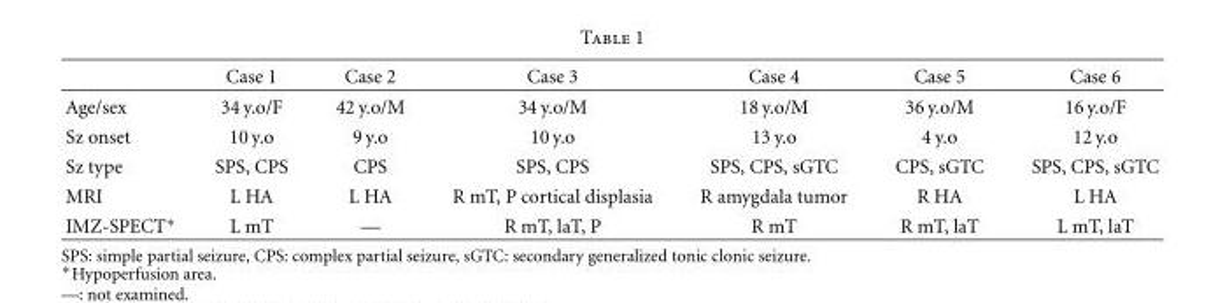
<table><thead><tr><td></td><td>Case 1</td><td>Case 2</td><td>Case 3</td><td>Case 4</td><td>Case 5</td><td>Case 6</td></tr></thead><tbody><tr><td>Age/sex</td><td>34 y.o/F</td><td>42 y.o/M</td><td>34 y.o/M</td><td>18 y.o/M</td><td>36 y.o/M</td><td>16 y.o/F</td></tr><tr><td>Sz onset</td><td>10 y.o</td><td>9 y.o</td><td>10 y.o</td><td>13 y.o</td><td>4 y.o</td><td>12 y.o</td></tr><tr><td>Sz type</td><td>SPS, CPS</td><td>CPS</td><td>SPS, CPS</td><td>SPS, CPS, sGTC</td><td>CPS, sGTC</td><td>SPS, CPS, sGTC</td></tr><tr><td>MRI</td><td>L HA</td><td>L HA</td><td>R mT, P cortical displasia</td><td>R amygdala tumor</td><td>R HA</td><td>L HA</td></tr><tr><td>IMZ-SPECT∗</td><td>L mT</td><td>—</td><td>R mT, laT, P</td><td>R mT</td><td>R mT, laT</td><td>L mT, laT</td></tr></tbody></table>